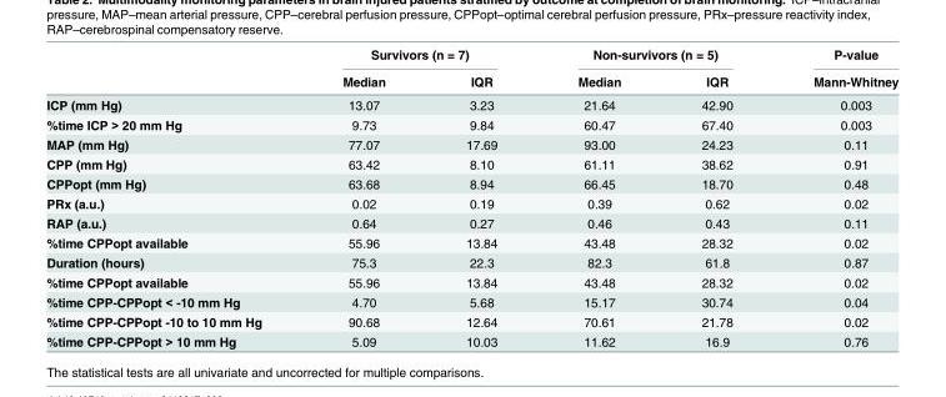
<table><thead><tr><td rowspan="2"></td><td colspan="2">Survivors (n = 7)</td><td colspan="2">Non-survivors (n = 5)</td><td rowspan="2">P-value Mann-Whitney</td></tr><tr><td>Median</td><td>IQR</td><td>Median</td><td>IQR</td></tr></thead><tbody><tr><td>ICP (mm Hg)</td><td>13.07</td><td>3.23</td><td>21.64</td><td>42.90</td><td>0.003</td></tr><tr><td>%time ICP &gt; 20 mm Hg</td><td>9.73</td><td>9.84</td><td>60.47</td><td>67.40</td><td>0.003</td></tr><tr><td>MAP (mm Hg)</td><td>77.07</td><td>17.69</td><td>93.00</td><td>24.23</td><td>0.11</td></tr><tr><td>CPP (mm Hg)</td><td>63.42</td><td>8.10</td><td>61.11</td><td>38.62</td><td>0.91</td></tr><tr><td>CPPopt (mm Hg)</td><td>63.68</td><td>8.94</td><td>66.45</td><td>18.70</td><td>0.48</td></tr><tr><td>PRx (a.u.)</td><td>0.02</td><td>0.19</td><td>0.39</td><td>0.62</td><td>0.02</td></tr><tr><td>RAP (a.u.)</td><td>0.64</td><td>0.27</td><td>0.46</td><td>0.43</td><td>0.11</td></tr><tr><td>%time CPPopt available</td><td>55.96</td><td>13.84</td><td>43.48</td><td>28.32</td><td>0.02</td></tr><tr><td>Duration (hours)</td><td>75.3</td><td>22.3</td><td>82.3</td><td>61.8</td><td>0.87</td></tr><tr><td>%time CPPopt available</td><td>55.96</td><td>13.84</td><td>43.48</td><td>28.32</td><td>0.02</td></tr><tr><td>%time CPP-CPPopt &lt; -10 mm Hg</td><td>4.70</td><td>5.68</td><td>15.17</td><td>30.74</td><td>0.04</td></tr><tr><td>%time CPP-CPPopt -10 to 10 mm Hg</td><td>90.68</td><td>12.64</td><td>70.61</td><td>21.78</td><td>0.02</td></tr><tr><td>%time CPP-CPPopt &gt; 10 mm Hg</td><td>5.09</td><td>10.03</td><td>11.62</td><td>16.9</td><td>0.76</td></tr></tbody></table>